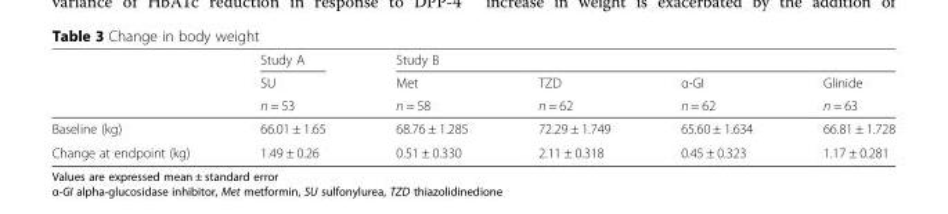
<table><thead><tr><td rowspan="3"></td><td rowspan="3">Study A SU n = 53</td><td colspan="4">Study B</td></tr><tr><td rowspan="2">Met n = 58</td><td rowspan="2">TZD n = 62</td><td rowspan="2">α-GI n = 62</td><td rowspan="2">Glinide n = 63</td></tr><tr></tr></thead><tbody><tr><td>Baseline (kg)</td><td>66.01 ± 1.65</td><td>68.76 ± 1.285</td><td>72.29 ± 1.749</td><td>65.60 ± 1.634</td><td>66.81 ± 1.728</td></tr><tr><td>Change at endpoint (kg)</td><td>1.49 ± 0.26</td><td>0.51 ± 0.330</td><td>2.11 ± 0.318</td><td>0.45 ± 0.323</td><td>1.17 ± 0.281</td></tr></tbody></table>